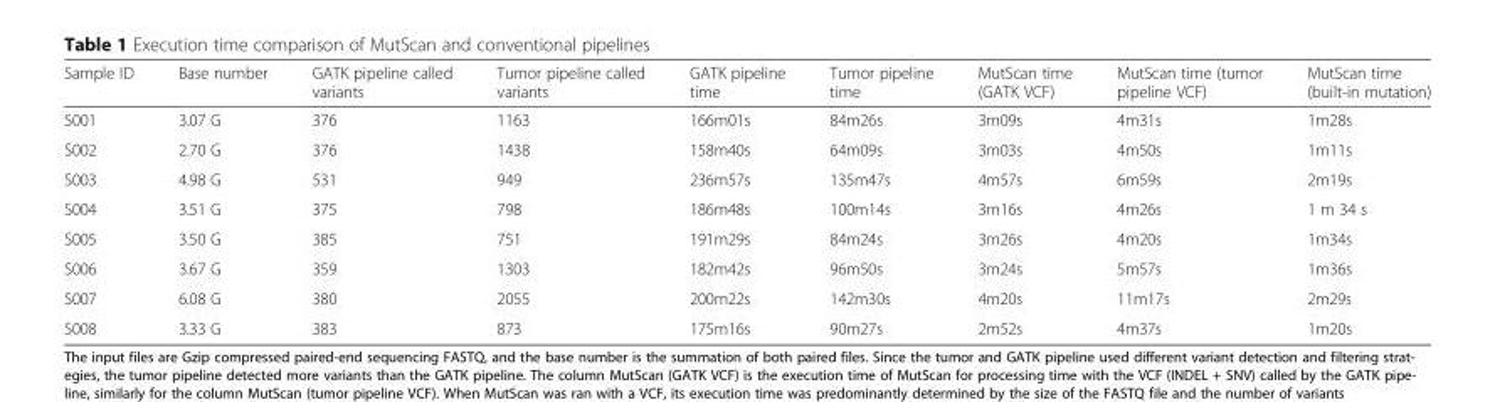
<table><thead><tr><td>Sample ID</td><td>Base number</td><td>GATK pipeline called variants</td><td>Tumor pipeline called variants</td><td>GATK pipeline time</td><td>Tumor pipeline time</td><td>MutScan time (GATK VCF)</td><td>MutScan time (tumor pipeline VCF)</td><td>MutScan time (built-in mutation)</td></tr></thead><tbody><tr><td>S001</td><td>3.07 G</td><td>376</td><td>1163</td><td>166m01s</td><td>84m26s</td><td>3m09s</td><td>4m31s</td><td>1m28s</td></tr><tr><td>S002</td><td>2.70 G</td><td>376</td><td>1438</td><td>158m40s</td><td>64m09s</td><td>3m03s</td><td>4m50s</td><td>1m11s</td></tr><tr><td>S003</td><td>4.98 G</td><td>531</td><td>949</td><td>236m57s</td><td>135m47s</td><td>4m57s</td><td>6m59s</td><td>2m19s</td></tr><tr><td>S004</td><td>3.51 G</td><td>375</td><td>798</td><td>186m48s</td><td>100m14s</td><td>3m16s</td><td>4m26s</td><td>1 m 34 s</td></tr><tr><td>S005</td><td>3.50 G</td><td>385</td><td>751</td><td>191m29s</td><td>84m24s</td><td>3m26s</td><td>4m20s</td><td>1m34s</td></tr><tr><td>S006</td><td>3.67 G</td><td>359</td><td>1303</td><td>182m42s</td><td>96m50s</td><td>3m24s</td><td>5m57s</td><td>1m36s</td></tr><tr><td>S007</td><td>6.08 G</td><td>380</td><td>2055</td><td>200m22s</td><td>142m30s</td><td>4m20s</td><td>11m17s</td><td>2m29s</td></tr><tr><td>S008</td><td>3.33 G</td><td>383</td><td>873</td><td>175m16s</td><td>90m27s</td><td>2m52s</td><td>4m37s</td><td>1m20s</td></tr></tbody></table>